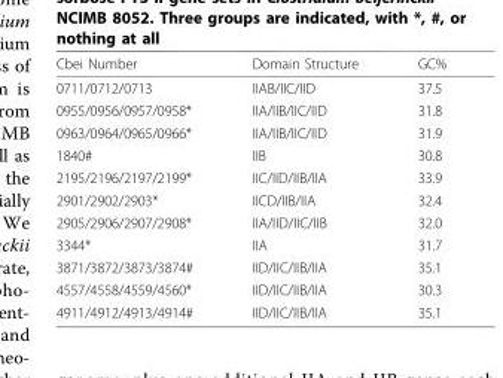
<table><thead><tr><td>Cbei Number</td><td>Domain Structure</td><td>GC%</td></tr></thead><tbody><tr><td>0711/0712/0713</td><td>IIAB/IIC/IID</td><td>37.5</td></tr><tr><td>0955/0956/0957/0958*</td><td>IIA/IIB/IIC/IID</td><td>31.8</td></tr><tr><td>0963/0964/0965/0966*</td><td>IIA/IIB/IIC/IID</td><td>31.9</td></tr><tr><td>1840#</td><td>IIB</td><td>30.8</td></tr><tr><td>2195/2196/2197/2199*</td><td>IIC/IID/IIB/IIA</td><td>33.9</td></tr><tr><td>2901/2902/2903*</td><td>IICD/IIB/IIA</td><td>32.4</td></tr><tr><td>2905/2906/2907/2908*</td><td>IIA/IID/IIC/IIB</td><td>32.0</td></tr><tr><td>3344*</td><td>IIA</td><td>31.7</td></tr><tr><td>3871/3872/3873/3874#</td><td>IID/IIC/IIB/IIA</td><td>35.1</td></tr><tr><td>4557/4558/4559/4560*</td><td>IID/IIC/IIB/IIA</td><td>30.3</td></tr><tr><td>4911/4912/4913/4914#</td><td>IID/IIC/IIB/IIA</td><td>35.1</td></tr></tbody></table>